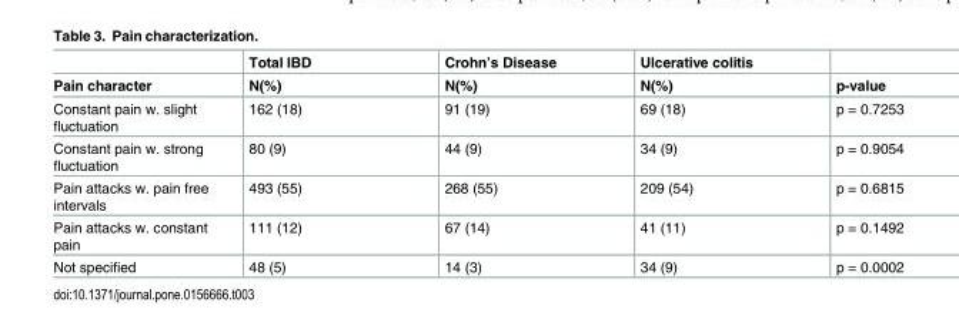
<table><thead><tr><td rowspan="2">Pain character</td><td rowspan="2">Total IBD N(%)</td><td rowspan="2">Crohn’s Disease N(%)</td><td rowspan="2">Ulcerative colitis N(%)</td><td rowspan="2">p-value</td></tr><tr></tr></thead><tbody><tr><td>Constant pain w. slight fluctuation</td><td>162 (18)</td><td>91 (19)</td><td>69 (18)</td><td>p = 0.7253</td></tr><tr><td>Constant pain w. strong fluctuation</td><td>80 (9)</td><td>44 (9)</td><td>34 (9)</td><td>p = 0.9054</td></tr><tr><td>Pain attacks w. pain free intervals</td><td>493 (55)</td><td>268 (55)</td><td>209 (54)</td><td>p = 0.6815</td></tr><tr><td>Pain attacks w. constant pain</td><td>111 (12)</td><td>67 (14)</td><td>41 (11)</td><td>p = 0.1492</td></tr><tr><td>Not specified</td><td>48 (5)</td><td>14 (3)</td><td>34 (9)</td><td>p = 0.0002</td></tr></tbody></table>